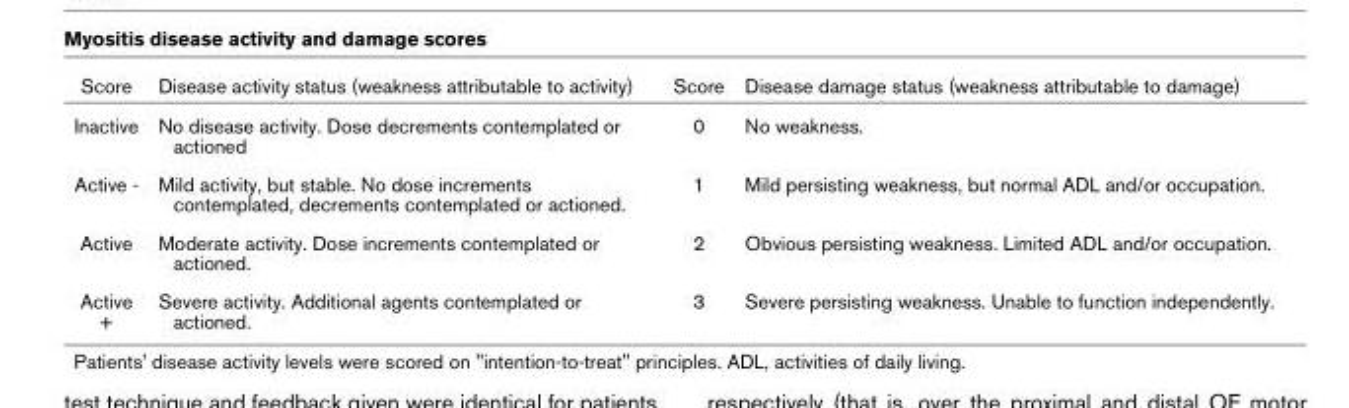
<table><thead><tr><td>Score</td><td>Disease activity status (weakness attributable to activity)</td><td>Score</td><td>Disease damage status (weakness attributable to damage)</td></tr></thead><tbody><tr><td>Inactive</td><td>No disease activity. Dose decrements contemplated or actioned</td><td>0</td><td>No weakness.</td></tr><tr><td>Active -</td><td>Mild activity, but stable. No dose increments contemplated, decrements contemplated or actioned.</td><td>1</td><td>Mild persisting weakness, but normal ADL and/or occupation.</td></tr><tr><td>Active</td><td>Moderate activity. Dose increments contemplated or actioned.</td><td>2</td><td>Obvious persisting weakness. Limited ADL and/or occupation.</td></tr><tr><td>Active +</td><td>Severe activity. Additional agents contemplated or actioned.</td><td>3</td><td>Severe persisting weakness. Unable to function independently.</td></tr></tbody></table>